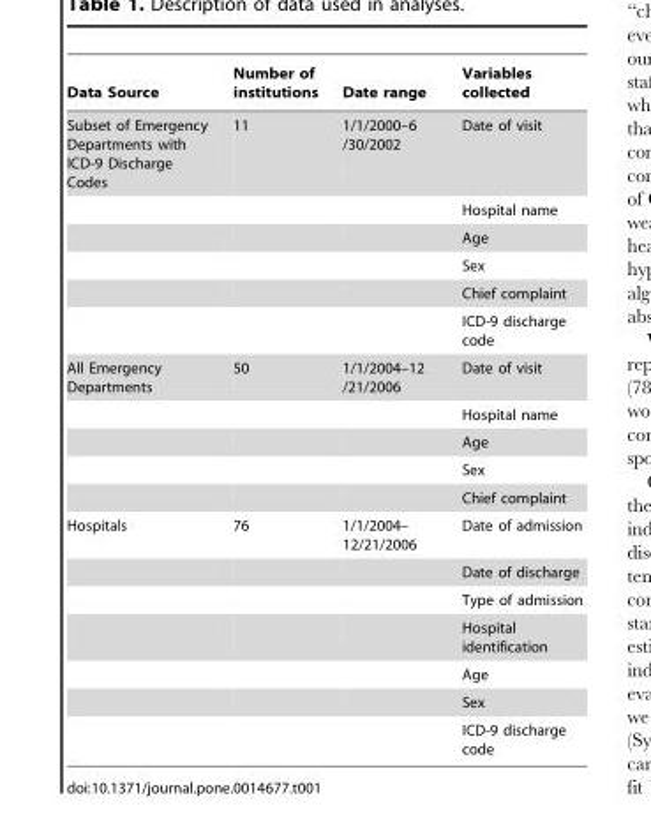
<table><thead><tr><td>Data Source</td><td>Number of institutions</td><td>Date range</td><td>Variables collected</td></tr></thead><tbody><tr><td rowspan="6">Subset of Emergency Departments with ICD-9 Discharge Codes</td><td>11</td><td>1/1/2000–6 /30/2002</td><td>Date of visit</td></tr><tr><td></td><td></td><td>Hospital name</td></tr><tr><td></td><td></td><td>Age</td></tr><tr><td></td><td></td><td>Sex</td></tr><tr><td></td><td></td><td>Chief complaint</td></tr><tr><td></td><td></td><td>ICD-9 discharge code</td></tr><tr><td rowspan="5">All Emergency Departments</td><td>50</td><td>1/1/2004–12 /21/2006</td><td>Date of visit</td></tr><tr><td></td><td></td><td>Hospital name</td></tr><tr><td></td><td></td><td>Age</td></tr><tr><td></td><td></td><td>Sex</td></tr><tr><td></td><td></td><td>Chief complaint</td></tr><tr><td rowspan="7">Hospitals</td><td>76</td><td>1/1/2004– 12/21/2006</td><td>Date of admission</td></tr><tr><td></td><td></td><td>Date of discharge</td></tr><tr><td></td><td></td><td>Type of admission</td></tr><tr><td></td><td></td><td>Hospital identification</td></tr><tr><td></td><td></td><td>Age</td></tr><tr><td></td><td></td><td>Sex</td></tr><tr><td></td><td></td><td>ICD-9 discharge code</td></tr></tbody></table>